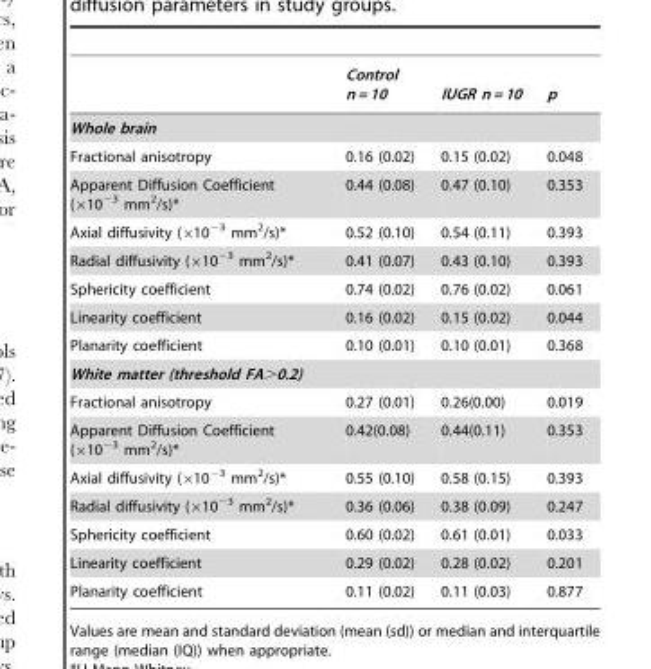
<table><thead><tr><td></td><td>Control n = 10</td><td>IUGR n = 10</td><td>p</td></tr></thead><tbody><tr><td colspan="4">Whole brain</td></tr><tr><td>Fractional anisotropy</td><td>0.16 (0.02)</td><td>0.15 (0.02)</td><td>0.048</td></tr><tr><td>Apparent Diffusion Coefficient (×10<sup>−3</sup> mm<sup>2</sup>/s)*</td><td>0.44 (0.08)</td><td>0.47 (0.10)</td><td>0.353</td></tr><tr><td>Axial diffusivity (×10<sup>−3</sup> mm<sup>2</sup>/s)*</td><td>0.52 (0.10)</td><td>0.54 (0.11)</td><td>0.393</td></tr><tr><td>Radial diffusivity (×10<sup>−3</sup> mm<sup>2</sup>/s)*</td><td>0.41 (0.07)</td><td>0.43 (0.10)</td><td>0.393</td></tr><tr><td>Sphericity coefficient</td><td>0.74 (0.02)</td><td>0.76 (0.02)</td><td>0.061</td></tr><tr><td>Linearity coefficient</td><td>0.16 (0.02)</td><td>0.15 (0.02)</td><td>0.044</td></tr><tr><td>Planarity coefficient</td><td>0.10 (0.01)</td><td>0.10 (0.01)</td><td>0.368</td></tr><tr><td colspan="4">White matter (threshold FA&gt;0.2)</td></tr><tr><td>Fractional anisotropy</td><td>0.27 (0.01)</td><td>0.26(0.00)</td><td>0.019</td></tr><tr><td>Apparent Diffusion Coefficient (×10<sup>−3</sup> mm<sup>2</sup>/s)*</td><td>0.42(0.08)</td><td>0.44(0.11)</td><td>0.353</td></tr><tr><td>Axial diffusivity (×10<sup>−3</sup> mm<sup>2</sup>/s)*</td><td>0.55 (0.10)</td><td>0.58 (0.15)</td><td>0.393</td></tr><tr><td>Radial diffusivity (×10<sup>−3</sup> mm<sup>2</sup>/s)*</td><td>0.36 (0.06)</td><td>0.38 (0.09)</td><td>0.247</td></tr><tr><td>Sphericity coefficient</td><td>0.60 (0.02)</td><td>0.61 (0.01)</td><td>0.033</td></tr><tr><td>Linearity coefficient</td><td>0.29 (0.02)</td><td>0.28 (0.02)</td><td>0.201</td></tr><tr><td>Planarity coefficient</td><td>0.11 (0.02)</td><td>0.11 (0.03)</td><td>0.877</td></tr></tbody></table>